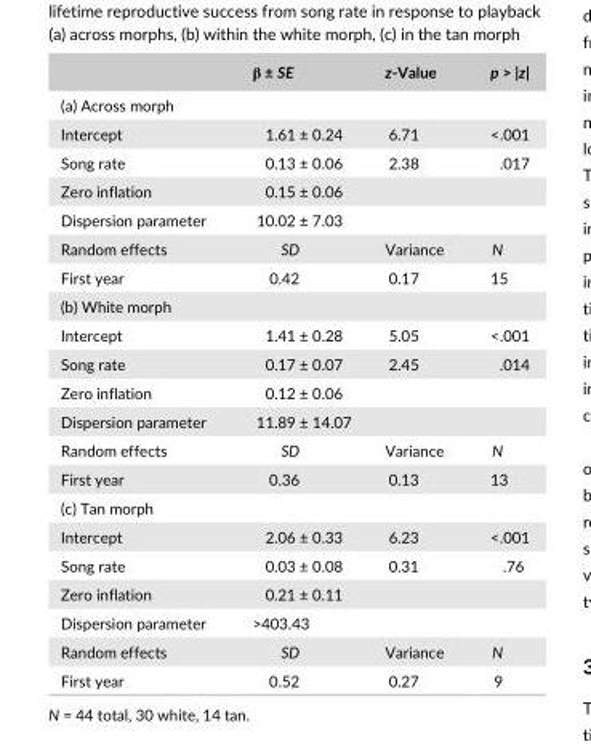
<table><thead><tr><td></td><td>β ± SE</td><td>z- Value</td><td>p &gt; |z|</td></tr></thead><tbody><tr><td colspan="4">(a) Across morph</td></tr><tr><td>Intercept</td><td>1.61 ± 0.24</td><td>6.71</td><td>&lt;.001</td></tr><tr><td>Song rate</td><td>0.13 ± 0.06</td><td>2.38</td><td>.017</td></tr><tr><td>Zero inflation</td><td>0.15 ± 0.06</td><td></td><td></td></tr><tr><td>Dispersion parameter</td><td>10.02 ± 7.03</td><td></td><td></td></tr><tr><td>Random effects</td><td>SD</td><td>Variance</td><td>N</td></tr><tr><td>First year</td><td>0.42</td><td>0.17</td><td>15</td></tr><tr><td colspan="4">(b) White morph</td></tr><tr><td>Intercept</td><td>1.41 ± 0.28</td><td>5.05</td><td>&lt;.001</td></tr><tr><td>Song rate</td><td>0.17 ± 0.07</td><td>2.45</td><td>.014</td></tr><tr><td>Zero inflation</td><td>0.12 ± 0.06</td><td></td><td></td></tr><tr><td>Dispersion parameter</td><td>11.89 ± 14.07</td><td></td><td></td></tr><tr><td>Random effects</td><td>SD</td><td>Variance</td><td>N</td></tr><tr><td>First year</td><td>0.36</td><td>0.13</td><td>13</td></tr><tr><td colspan="4">(c) Tan morph</td></tr><tr><td>Intercept</td><td>2.06 ± 0.33</td><td>6.23</td><td>&lt;.001</td></tr><tr><td>Song rate</td><td>0.03 ± 0.08</td><td>0.31</td><td>.76</td></tr><tr><td>Zero inflation</td><td>0.21 ± 0.11</td><td></td><td></td></tr><tr><td>Dispersion parameter</td><td>&gt;403.43</td><td></td><td></td></tr><tr><td>Random effects</td><td>SD</td><td>Variance</td><td>N</td></tr><tr><td>First year</td><td>0.52</td><td>0.27</td><td>9</td></tr></tbody></table>